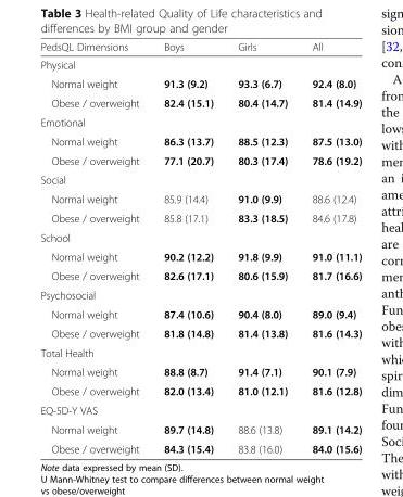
<table><thead><tr><td>PedsQL Dimensions</td><td>Boys</td><td>Girls</td><td>All</td></tr></thead><tbody><tr><td colspan="4">Physical</td></tr><tr><td>Normal weight</td><td>91.3 (9.2)</td><td>93.3 (6.7)</td><td>92.4 (8.0)</td></tr><tr><td>Obese / overweight</td><td>82.4 (15.1)</td><td>80.4 (14.7)</td><td>81.4 (14.9)</td></tr><tr><td colspan="4">Emotional</td></tr><tr><td>Normal weight</td><td>86.3 (13.7)</td><td>88.5 (12.3)</td><td>87.5 (13.0)</td></tr><tr><td>Obese / overweight</td><td>77.1 (20.7)</td><td>80.3 (17.4)</td><td>78.6 (19.2)</td></tr><tr><td colspan="4">Social</td></tr><tr><td>Normal weight</td><td>85.9 (14.4)</td><td>91.0 (9.9)</td><td>88.6 (12.4)</td></tr><tr><td>Obese / overweight</td><td>85.8 (17.1)</td><td>83.3 (18.5)</td><td>84.6 (17.8)</td></tr><tr><td colspan="4">School</td></tr><tr><td>Normal weight</td><td>90.2 (12.2)</td><td>91.8 (9.9)</td><td>91.0 (11.1)</td></tr><tr><td>Obese / overweight</td><td>82.6 (17.1)</td><td>80.6 (15.9)</td><td>81.7 (16.6)</td></tr><tr><td colspan="4">Psychosocial</td></tr><tr><td>Normal weight</td><td>87.4 (10.6)</td><td>90.4 (8.0)</td><td>89.0 (9.4)</td></tr><tr><td>Obese / overweight</td><td>81.8 (14.8)</td><td>81.4 (13.8)</td><td>81.6 (14.3)</td></tr><tr><td colspan="4">Total Health</td></tr><tr><td>Normal weight</td><td>88.8 (8.7)</td><td>91.4 (7.1)</td><td>90.1 (7.9)</td></tr><tr><td>Obese / overweight</td><td>82.0 (13.4)</td><td>81.0 (12.1)</td><td>81.6 (12.8)</td></tr><tr><td colspan="4">EQ-5D-Y VAS</td></tr><tr><td>Normal weight</td><td>89.7 (14.8)</td><td>88.6 (13.8)</td><td>89.1 (14.2)</td></tr><tr><td>Obese / overweight</td><td>84.3 (15.4)</td><td>83.8 (16.0)</td><td>84.0 (15.6)</td></tr></tbody></table>